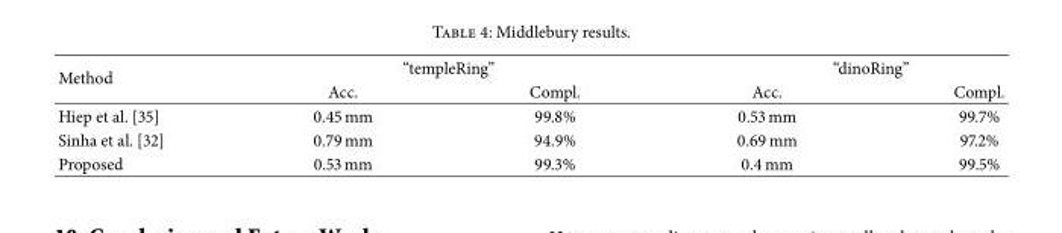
<table><thead><tr><td rowspan="2">Method</td><td colspan="2">“templeRing”</td><td colspan="2">“dinoRing”</td></tr><tr><td>Acc.</td><td>Compl.</td><td>Acc.</td><td>Compl.</td></tr></thead><tbody><tr><td>Hiep et al. [35]</td><td>0.45 mm</td><td>99.8%</td><td>0.53 mm</td><td>99.7%</td></tr><tr><td>Sinha et al. [32]</td><td>0.79 mm</td><td>94.9%</td><td>0.69 mm</td><td>97.2%</td></tr><tr><td>Proposed</td><td>0.53 mm</td><td>99.3%</td><td>0.4 mm</td><td>99.5%</td></tr></tbody></table>